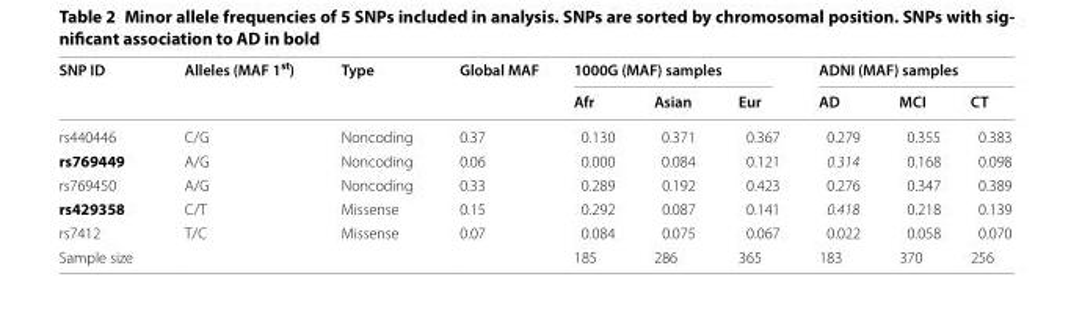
<table><thead><tr><td rowspan="2">SNP ID</td><td rowspan="2">Alleles (MAF 1<sup>st</sup>)</td><td rowspan="2">Type</td><td rowspan="2">Global MAF</td><td colspan="3">1000G (MAF) samples</td><td colspan="3">ADNI (MAF) samples</td></tr><tr><td>Afr</td><td>Asian</td><td>Eur</td><td>AD</td><td>MCI</td><td>CT</td></tr></thead><tbody><tr><td>rs440446</td><td>C/G</td><td>Noncoding</td><td>0.37</td><td>0.130</td><td>0.371</td><td>0.367</td><td>0.279</td><td>0.355</td><td>0.383</td></tr><tr><td>rs769449</td><td>A/G</td><td>Noncoding</td><td>0.06</td><td>0.000</td><td>0.084</td><td>0.121</td><td>0.314</td><td>0.168</td><td>0.098</td></tr><tr><td>rs769450</td><td>A/G</td><td>Noncoding</td><td>0.33</td><td>0.289</td><td>0.192</td><td>0.423</td><td>0.276</td><td>0.347</td><td>0.389</td></tr><tr><td>rs429358</td><td>C/T</td><td>Missense</td><td>0.15</td><td>0.292</td><td>0.087</td><td>0.141</td><td>0.418</td><td>0.218</td><td>0.139</td></tr><tr><td>rs7412</td><td>T/C</td><td>Missense</td><td>0.07</td><td>0.084</td><td>0.075</td><td>0.067</td><td>0.022</td><td>0.058</td><td>0.070</td></tr><tr><td>Sample size</td><td></td><td></td><td></td><td>185</td><td>286</td><td>365</td><td>183</td><td>370</td><td>256</td></tr></tbody></table>